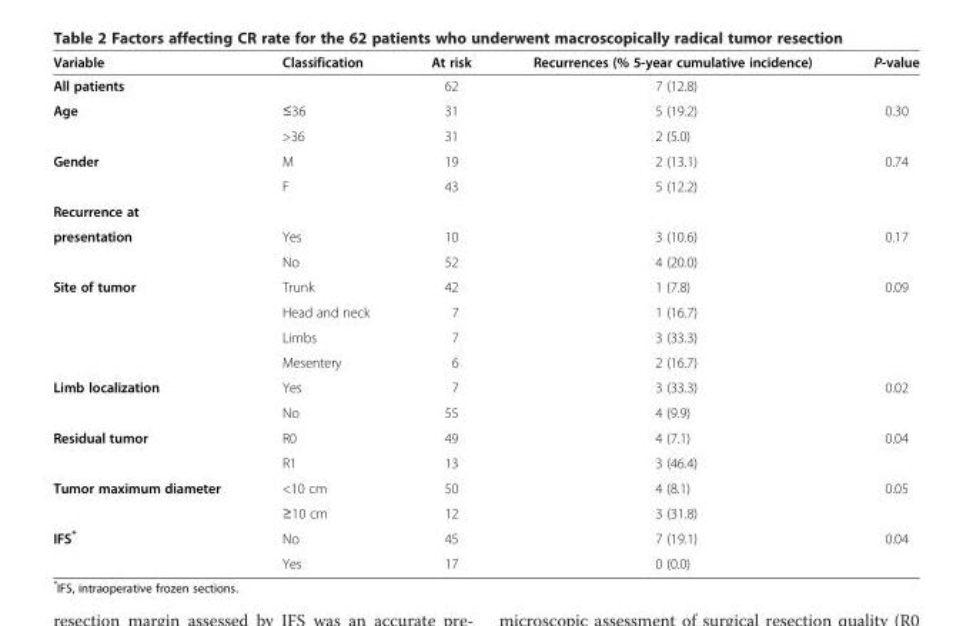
<table><thead><tr><td>Variable</td><td>Classification</td><td>At risk</td><td>Recurrences (% 5-year cumulative incidence)</td><td>P-value</td></tr></thead><tbody><tr><td>All patients</td><td></td><td>62</td><td>7 (12.8)</td><td></td></tr><tr><td rowspan="2">Age</td><td>≤36</td><td>31</td><td>5 (19.2)</td><td>0.30</td></tr><tr><td>&gt;36</td><td>31</td><td>2 (5.0)</td><td></td></tr><tr><td rowspan="2">Gender</td><td>M</td><td>19</td><td>2 (13.1)</td><td>0.74</td></tr><tr><td>F</td><td>43</td><td>5 (12.2)</td><td></td></tr><tr><td colspan="5">Recurrence at</td></tr><tr><td rowspan="2">presentation</td><td>Yes</td><td>10</td><td>3 (10.6)</td><td>0.17</td></tr><tr><td>No</td><td>52</td><td>4 (20.0)</td><td></td></tr><tr><td rowspan="4">Site of tumor</td><td>Trunk</td><td>42</td><td>1 (7.8)</td><td>0.09</td></tr><tr><td>Head and neck</td><td>7</td><td>1 (16.7)</td><td></td></tr><tr><td>Limbs</td><td>7</td><td>3 (33.3)</td><td></td></tr><tr><td>Mesentery</td><td>6</td><td>2 (16.7)</td><td></td></tr><tr><td rowspan="2">Limb localization</td><td>Yes</td><td>7</td><td>3 (33.3)</td><td>0.02</td></tr><tr><td>No</td><td>55</td><td>4 (9.9)</td><td></td></tr><tr><td rowspan="2">Residual tumor</td><td>R0</td><td>49</td><td>4 (7.1)</td><td>0.04</td></tr><tr><td>R1</td><td>13</td><td>3 (46.4)</td><td></td></tr><tr><td rowspan="2">Tumor maximum diameter</td><td>&lt;10 cm</td><td>50</td><td>4 (8.1)</td><td>0.05</td></tr><tr><td>≥10 cm</td><td>12</td><td>3 (31.8)</td><td></td></tr><tr><td rowspan="2">IFS*</td><td>No</td><td>45</td><td>7 (19.1)</td><td>0.04</td></tr><tr><td>Yes</td><td>17</td><td>0 (0.0)</td><td></td></tr></tbody></table>